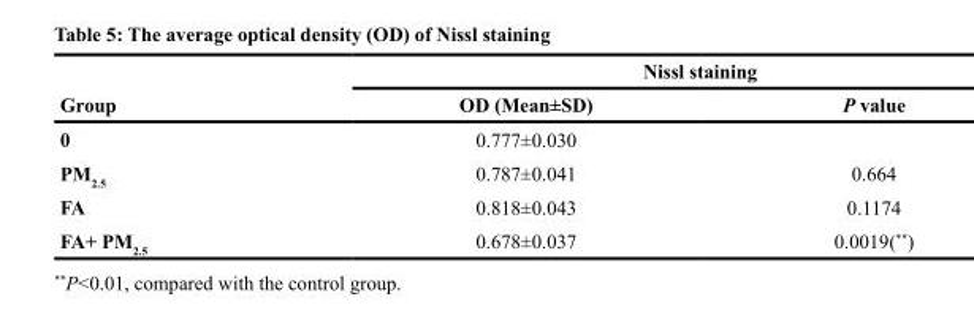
<table><thead><tr><td rowspan="2">Group</td><td colspan="2">Nissl staining</td></tr><tr><td>OD (Mean±SD)</td><td>P value</td></tr></thead><tbody><tr><td>0</td><td>0.777±0.030</td><td></td></tr><tr><td>PM<sub>2.5</sub></td><td>0.787±0.041</td><td>0.664</td></tr><tr><td>FA</td><td>0.818±0.043</td><td>0.1174</td></tr><tr><td>FA+ PM<sub>2.5</sub></td><td>0.678±0.037</td><td>0.0019(**)</td></tr></tbody></table>